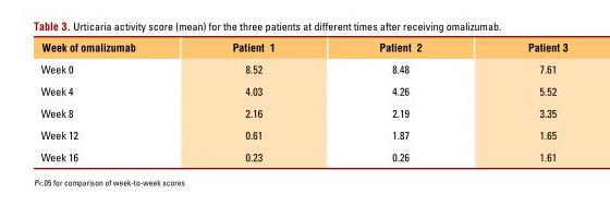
<table><thead><tr><td>Week of omalizumab</td><td>Patient 1</td><td>Patient 2</td><td>Patient 3</td></tr></thead><tbody><tr><td>Week 0</td><td>8.52</td><td>8.48</td><td>7.61</td></tr><tr><td>Week 4</td><td>4.03</td><td>4.26</td><td>5.52</td></tr><tr><td>Week 8</td><td>2.16</td><td>2.19</td><td>3.35</td></tr><tr><td>Week 12</td><td>0.61</td><td>1.87</td><td>1.65</td></tr><tr><td>Week 16</td><td>0.23</td><td>0.26</td><td>1.61</td></tr></tbody></table>